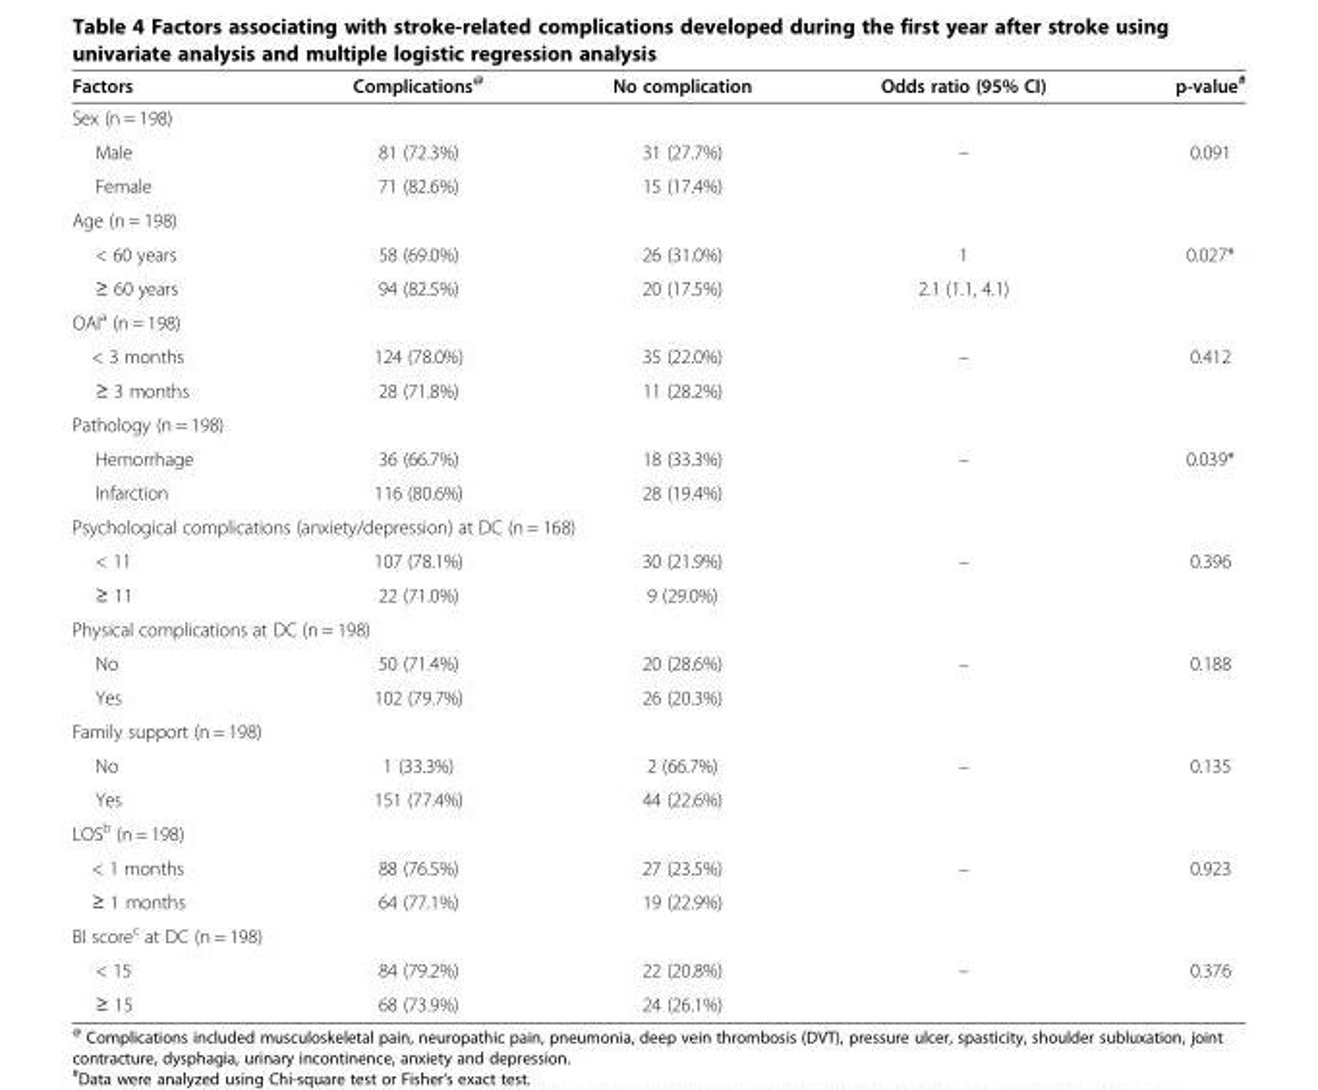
<table><thead><tr><td>Factors</td><td>Complications<sup>@</sup></td><td>No complication</td><td>Odds ratio (95% CI)</td><td>p-value<sup>#</sup></td></tr></thead><tbody><tr><td colspan="5">Sex (n = 198)</td></tr><tr><td>Male</td><td>81 (72.3%)</td><td>31 (27.7%)</td><td>–</td><td>0.091</td></tr><tr><td>Female</td><td>71 (82.6%)</td><td>15 (17.4%)</td><td></td><td></td></tr><tr><td colspan="5">Age (n = 198)</td></tr><tr><td>&lt; 60 years</td><td>58 (69.0%)</td><td>26 (31.0%)</td><td>1</td><td>0.027*</td></tr><tr><td>≥ 60 years</td><td>94 (82.5%)</td><td>20 (17.5%)</td><td>2.1 (1.1, 4.1)</td><td></td></tr><tr><td colspan="5">OAI<sup>a</sup> (n = 198)</td></tr><tr><td>&lt; 3 months</td><td>124 (78.0%)</td><td>35 (22.0%)</td><td>–</td><td>0.412</td></tr><tr><td>≥ 3 months</td><td>28 (71.8%)</td><td>11 (28.2%)</td><td></td><td></td></tr><tr><td colspan="5">Pathology (n = 198)</td></tr><tr><td>Hemorrhage</td><td>36 (66.7%)</td><td>18 (33.3%)</td><td>–</td><td>0.039*</td></tr><tr><td>Infarction</td><td>116 (80.6%)</td><td>28 (19.4%)</td><td></td><td></td></tr><tr><td colspan="5">Psychological complications (anxiety/depression) at DC (n = 168)</td></tr><tr><td>&lt; 11</td><td>107 (78.1%)</td><td>30 (21.9%)</td><td>–</td><td>0.396</td></tr><tr><td>≥ 11</td><td>22 (71.0%)</td><td>9 (29.0%)</td><td></td><td></td></tr><tr><td colspan="5">Physical complications at DC (n = 198)</td></tr><tr><td>No</td><td>50 (71.4%)</td><td>20 (28.6%)</td><td>–</td><td>0.188</td></tr><tr><td>Yes</td><td>102 (79.7%)</td><td>26 (20.3%)</td><td></td><td></td></tr><tr><td colspan="5">Family support (n = 198)</td></tr><tr><td>No</td><td>1 (33.3%)</td><td>2 (66.7%)</td><td>–</td><td>0.135</td></tr><tr><td>Yes</td><td>151 (77.4%)</td><td>44 (22.6%)</td><td></td><td></td></tr><tr><td colspan="5">LOS<sup>b</sup> (n = 198)</td></tr><tr><td>&lt; 1 months</td><td>88 (76.5%)</td><td>27 (23.5%)</td><td>–</td><td>0.923</td></tr><tr><td>≥ 1 months</td><td>64 (77.1%)</td><td>19 (22.9%)</td><td></td><td></td></tr><tr><td colspan="5">BI score<sup>c</sup> at DC (n = 198)</td></tr><tr><td>&lt; 15</td><td>84 (79.2%)</td><td>22 (20.8%)</td><td>–</td><td>0.376</td></tr><tr><td>≥ 15</td><td>68 (73.9%)</td><td>24 (26.1%)</td><td></td><td></td></tr></tbody></table>